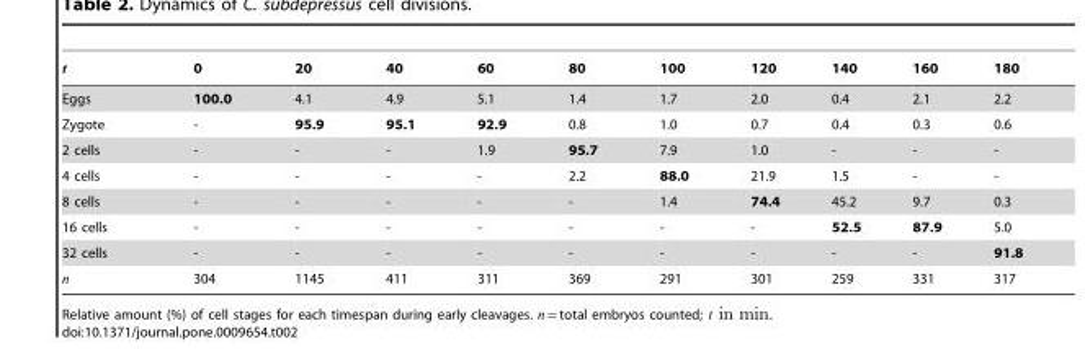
<table><thead><tr><td>t</td><td>0</td><td>20</td><td>40</td><td>60</td><td>80</td><td>100</td><td>120</td><td>140</td><td>160</td><td>180</td></tr></thead><tbody><tr><td>Eggs</td><td>100.0</td><td>4.1</td><td>4.9</td><td>5.1</td><td>1.4</td><td>1.7</td><td>2.0</td><td>0.4</td><td>2.1</td><td>2.2</td></tr><tr><td>Zygote</td><td>-</td><td>95.9</td><td>95.1</td><td>92.9</td><td>0.8</td><td>1.0</td><td>0.7</td><td>0.4</td><td>0.3</td><td>0.6</td></tr><tr><td>2 cells</td><td>-</td><td>-</td><td>-</td><td>1.9</td><td>95.7</td><td>7.9</td><td>1.0</td><td>-</td><td>-</td><td>-</td></tr><tr><td>4 cells</td><td>-</td><td>-</td><td>-</td><td>-</td><td>2.2</td><td>88.0</td><td>21.9</td><td>1.5</td><td>-</td><td>-</td></tr><tr><td>8 cells</td><td>-</td><td>-</td><td>-</td><td>-</td><td>-</td><td>1.4</td><td>74.4</td><td>45.2</td><td>9.7</td><td>0.3</td></tr><tr><td>16 cells</td><td>-</td><td>-</td><td>-</td><td>-</td><td>-</td><td>-</td><td>-</td><td>52.5</td><td>87.9</td><td>5.0</td></tr><tr><td rowspan="2">32 cells n</td><td>-</td><td>-</td><td>-</td><td>-</td><td>-</td><td>-</td><td>-</td><td>-</td><td>-</td><td>91.8</td></tr><tr><td>304</td><td>1145</td><td>411</td><td>311</td><td>369</td><td>291</td><td>301</td><td>259</td><td>331</td><td>317</td></tr></tbody></table>